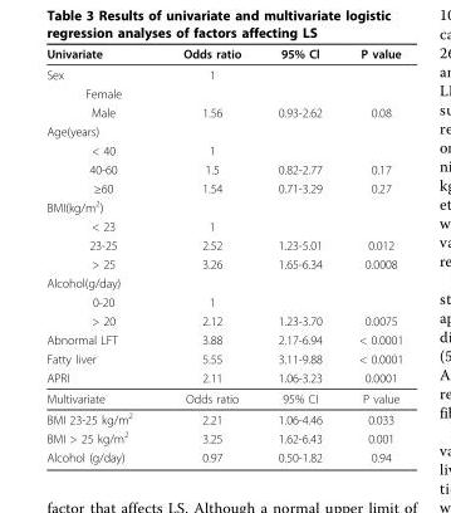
<table><thead><tr><td>Univariate</td><td>Odds ratio</td><td>95% Cl</td><td>P value</td></tr></thead><tbody><tr><td>Sex</td><td>1</td><td></td><td></td></tr><tr><td colspan="4">Female</td></tr><tr><td>Male</td><td>1.56</td><td>0.93-2.62</td><td>0.08</td></tr><tr><td colspan="4">Age(years)</td></tr><tr><td>&lt; 40</td><td>1</td><td></td><td></td></tr><tr><td>40-60</td><td>1.5</td><td>0.82-2.77</td><td>0.17</td></tr><tr><td>≥60</td><td>1.54</td><td>0.71-3.29</td><td>0.27</td></tr><tr><td colspan="4">BMI(kg/m<sup>2</sup>)</td></tr><tr><td>&lt; 23</td><td>1</td><td></td><td></td></tr><tr><td>23-25</td><td>2.52</td><td>1.23-5.01</td><td>0.012</td></tr><tr><td>&gt; 25</td><td>3.26</td><td>1.65-6.34</td><td>0.0008</td></tr><tr><td colspan="4">Alcohol(g/day)</td></tr><tr><td>0-20</td><td>1</td><td></td><td></td></tr><tr><td>&gt; 20</td><td>2.12</td><td>1.23-3.70</td><td>0.0075</td></tr><tr><td>Abnormal LFT</td><td>3.88</td><td>2.17-6.94</td><td>&lt; 0.0001</td></tr><tr><td>Fatty liver</td><td>5.55</td><td>3.11-9.88</td><td>&lt; 0.0001</td></tr><tr><td>APRI</td><td>2.11</td><td>1.06-3.23</td><td>0.0001</td></tr><tr><td>Multivariate</td><td>Odds ratio</td><td>95% CI</td><td>P value</td></tr><tr><td>BMI 23-25 kg/m<sup>2</sup></td><td>2.21</td><td>1.06-4.46</td><td>0.033</td></tr><tr><td>BMI &gt; 25 kg/m<sup>2</sup></td><td>3.25</td><td>1.62-6.43</td><td>0.001</td></tr><tr><td>Alcohol (g/day)</td><td>0.97</td><td>0.50-1.82</td><td>0.94</td></tr></tbody></table>